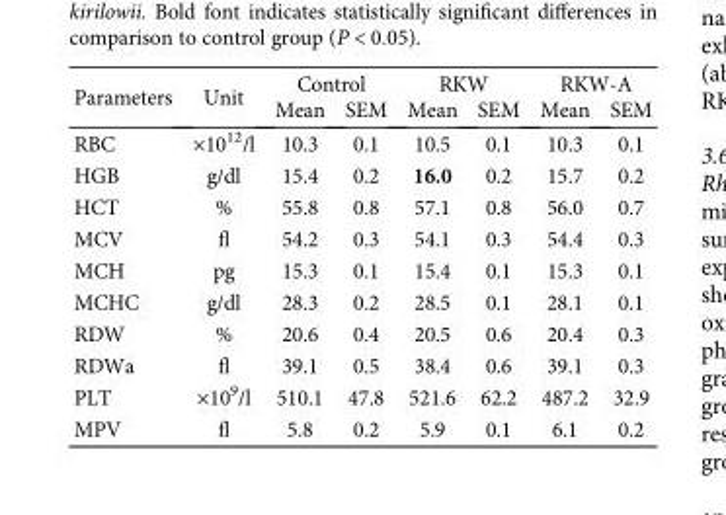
<table><thead><tr><td rowspan="2">Parameters</td><td rowspan="2">Unit</td><td colspan="2">Control</td><td colspan="2">RKW</td><td colspan="2">RKW-A</td></tr><tr><td>Mean</td><td>SEM</td><td>Mean</td><td>SEM</td><td>Mean</td><td>SEM</td></tr></thead><tbody><tr><td>RBC</td><td>×10<sup>12</sup>/l</td><td>10.3</td><td>0.1</td><td>10.5</td><td>0.1</td><td>10.3</td><td>0.1</td></tr><tr><td>HGB</td><td>g/dl</td><td>15.4</td><td>0.2</td><td>16.0</td><td>0.2</td><td>15.7</td><td>0.2</td></tr><tr><td>HCT</td><td>%</td><td>55.8</td><td>0.8</td><td>57.1</td><td>0.8</td><td>56.0</td><td>0.7</td></tr><tr><td>MCV</td><td>fl</td><td>54.2</td><td>0.3</td><td>54.1</td><td>0.3</td><td>54.4</td><td>0.3</td></tr><tr><td>MCH</td><td>pg</td><td>15.3</td><td>0.1</td><td>15.4</td><td>0.1</td><td>15.3</td><td>0.1</td></tr><tr><td>MCHC</td><td>g/dl</td><td>28.3</td><td>0.2</td><td>28.5</td><td>0.1</td><td>28.1</td><td>0.1</td></tr><tr><td>RDW</td><td>%</td><td>20.6</td><td>0.4</td><td>20.5</td><td>0.6</td><td>20.4</td><td>0.3</td></tr><tr><td>RDWa</td><td>fl</td><td>39.1</td><td>0.5</td><td>38.4</td><td>0.6</td><td>39.1</td><td>0.3</td></tr><tr><td>PLT</td><td>×10<sup>9</sup>/l</td><td>510.1</td><td>47.8</td><td>521.6</td><td>62.2</td><td>487.2</td><td>32.9</td></tr><tr><td>MPV</td><td>fl</td><td>5.8</td><td>0.2</td><td>5.9</td><td>0.1</td><td>6.1</td><td>0.2</td></tr></tbody></table>